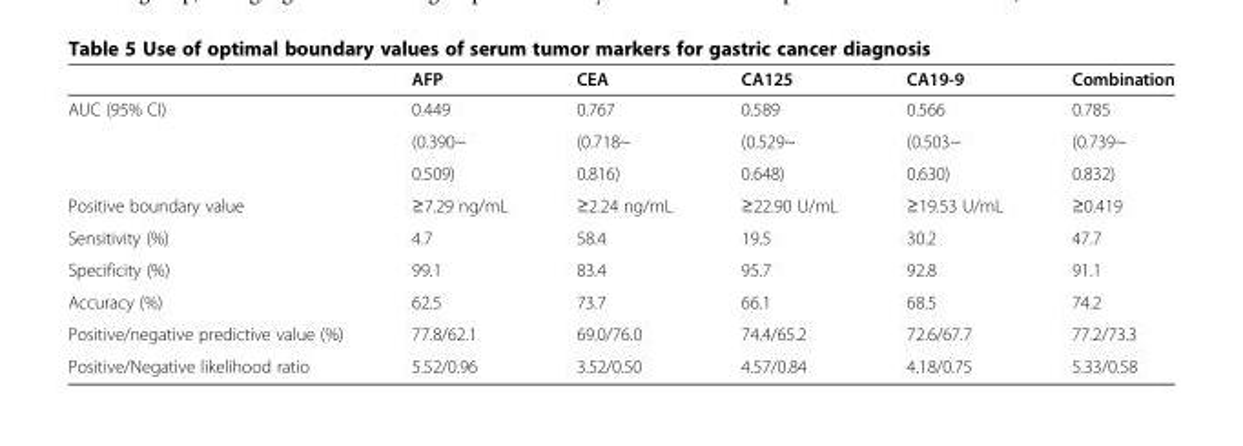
<table><thead><tr><td></td><td>AFP</td><td>CEA</td><td>CA125</td><td>CA19-9</td><td>Combination</td></tr></thead><tbody><tr><td rowspan="3">AUC (95% CI)</td><td>0.449</td><td>0.767</td><td>0.589</td><td>0.566</td><td>0.785</td></tr><tr><td>(0.390~</td><td>(0.718~</td><td>(0.529~</td><td>(0.503~</td><td>(0.739~</td></tr><tr><td>0.509)</td><td>0.816)</td><td>0.648)</td><td>0.630)</td><td>0.832)</td></tr><tr><td>Positive boundary value</td><td>≥7.29 ng/mL</td><td>≥2.24 ng/mL</td><td>≥22.90 U/mL</td><td>≥19.53 U/mL</td><td>≥0.419</td></tr><tr><td>Sensitivity (%)</td><td>4.7</td><td>58.4</td><td>19.5</td><td>30.2</td><td>47.7</td></tr><tr><td>Specificity (%)</td><td>99.1</td><td>83.4</td><td>95.7</td><td>92.8</td><td>91.1</td></tr><tr><td>Accuracy (%)</td><td>62.5</td><td>73.7</td><td>66.1</td><td>68.5</td><td>74.2</td></tr><tr><td>Positive/negative predictive value (%)</td><td>77.8/62.1</td><td>69.0/76.0</td><td>74.4/65.2</td><td>72.6/67.7</td><td>77.2/73.3</td></tr><tr><td>Positive/Negative likelihood ratio</td><td>5.52/0.96</td><td>3.52/0.50</td><td>4.57/0.84</td><td>4.18/0.75</td><td>5.33/0.58</td></tr></tbody></table>